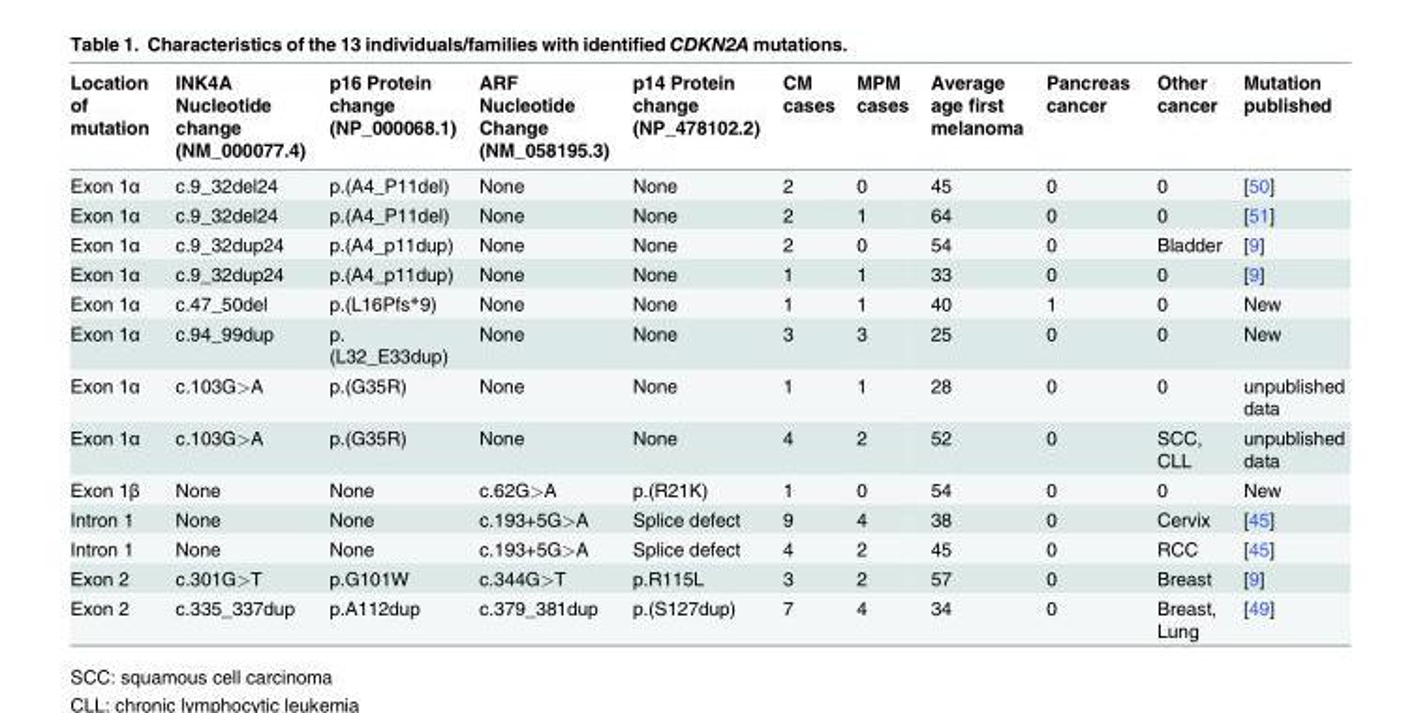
<table><thead><tr><td>Location of mutation</td><td>INK4A Nucleotide change (NM_000077.4)</td><td>p16 Protein change (NP_000068.1)</td><td>ARF Nucleotide Change (NM_058195.3)</td><td>p14 Protein change (NP_478102.2)</td><td>CM cases</td><td>MPM cases</td><td>Average age first melanoma</td><td>Pancreas cancer</td><td>Other cancer</td><td>Mutation published</td></tr></thead><tbody><tr><td>Exon 1α</td><td>c.9_32del24</td><td>p.(A4_P11del)</td><td>None</td><td>None</td><td>2</td><td>0</td><td>45</td><td>0</td><td>0</td><td>[50]</td></tr><tr><td>Exon 1α</td><td>c.9_32del24</td><td>p.(A4_P11del)</td><td>None</td><td>None</td><td>2</td><td>1</td><td>64</td><td>0</td><td>0</td><td>[51]</td></tr><tr><td>Exon 1α</td><td>c.9_32dup24</td><td>p.(A4_p11dup)</td><td>None</td><td>None</td><td>2</td><td>0</td><td>54</td><td>0</td><td>Bladder</td><td>[9]</td></tr><tr><td>Exon 1α</td><td>c.9_32dup24</td><td>p.(A4_p11dup)</td><td>None</td><td>None</td><td>1</td><td>1</td><td>33</td><td>0</td><td>0</td><td>[9]</td></tr><tr><td>Exon 1α</td><td>c.47_50del</td><td>p.(L16Pfs*9)</td><td>None</td><td>None</td><td>1</td><td>1</td><td>40</td><td>1</td><td>0</td><td>New</td></tr><tr><td>Exon 1α</td><td>c.94_99dup</td><td>p. (L32_E33dup)</td><td>None</td><td>None</td><td>3</td><td>3</td><td>25</td><td>0</td><td>0</td><td>New</td></tr><tr><td>Exon 1α</td><td>c.103G&gt;A</td><td>p.(G35R)</td><td>None</td><td>None</td><td>1</td><td>1</td><td>28</td><td>0</td><td>0</td><td>unpublished data</td></tr><tr><td>Exon 1α</td><td>c.103G&gt;A</td><td>p.(G35R)</td><td>None</td><td>None</td><td>4</td><td>2</td><td>52</td><td>0</td><td>SCC, CLL</td><td>unpublished data</td></tr><tr><td>Exon 1β</td><td>None</td><td>None</td><td>c.62G&gt;A</td><td>p.(R21K)</td><td>1</td><td>0</td><td>54</td><td>0</td><td>0</td><td>New</td></tr><tr><td>Intron 1</td><td>None</td><td>None</td><td>c.193+5G&gt;A</td><td>Splice defect</td><td>9</td><td>4</td><td>38</td><td>0</td><td>Cervix</td><td>[45]</td></tr><tr><td>Intron 1</td><td>None</td><td>None</td><td>c.193+5G&gt;A</td><td>Splice defect</td><td>4</td><td>2</td><td>45</td><td>0</td><td>RCC</td><td>[45]</td></tr><tr><td>Exon 2</td><td>c.301G&gt;T</td><td>p.G101W</td><td>c.344G&gt;T</td><td>p.R115L</td><td>3</td><td>2</td><td>57</td><td>0</td><td>Breast</td><td>[9]</td></tr><tr><td>Exon 2</td><td>c.335_337dup</td><td>p.A112dup</td><td>c.379_381dup</td><td>p.(S127dup)</td><td>7</td><td>4</td><td>34</td><td>0</td><td>Breast, Lung</td><td>[49]</td></tr></tbody></table>